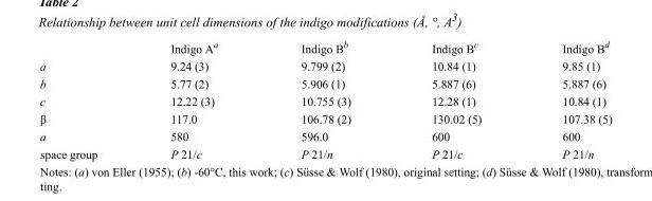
<table><thead><tr><td></td><td>Indigo A<sup>a</sup></td><td>Indigo B<sup>b</sup></td><td>Indigo B<sup>c</sup></td><td>Indigo B<sup>d</sup></td></tr></thead><tbody><tr><td>a</td><td>9.24 (3)</td><td>9.799 (2)</td><td>10.84 (1)</td><td>9.85 (1)</td></tr><tr><td>b</td><td>5.77 (2)</td><td>5.906 (1)</td><td>5.887 (6)</td><td>5.887 (6)</td></tr><tr><td>c</td><td>12.22 (3)</td><td>10.755 (3)</td><td>12.28 (1)</td><td>10.84 (1)</td></tr><tr><td>β</td><td>117.0</td><td>106.78 (2)</td><td>130.02 (5)</td><td>107.38 (5)</td></tr><tr><td>a</td><td>580</td><td>596.0</td><td>600</td><td>600</td></tr><tr><td>space group</td><td>P 21/c</td><td>P 21/n</td><td>P 21/c</td><td>P 21/n</td></tr></tbody></table>